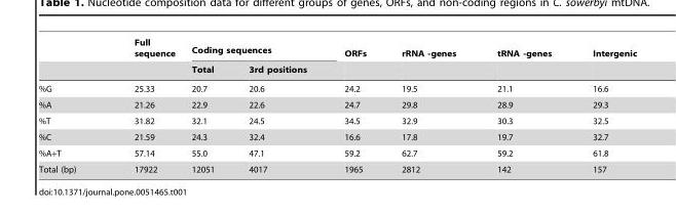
<table><thead><tr><td rowspan="2"></td><td rowspan="2">Full sequence</td><td colspan="2">Coding sequences</td><td rowspan="2">ORFs</td><td rowspan="2">rRNA -genes</td><td rowspan="2">tRNA -genes</td><td rowspan="2">Intergenic</td></tr><tr><td>Total</td><td>3rd positions</td></tr></thead><tbody><tr><td>%G</td><td>25.33</td><td>20.7</td><td>20.6</td><td>24.2</td><td>19.5</td><td>21.1</td><td>16.6</td></tr><tr><td>%A</td><td>21.26</td><td>22.9</td><td>22.6</td><td>24.7</td><td>29.8</td><td>28.9</td><td>29.3</td></tr><tr><td>%T</td><td>31.82</td><td>32.1</td><td>24.5</td><td>34.5</td><td>32.9</td><td>30.3</td><td>32.5</td></tr><tr><td>%C</td><td>21.59</td><td>24.3</td><td>32.4</td><td>16.6</td><td>17.8</td><td>19.7</td><td>32.7</td></tr><tr><td>%A+T</td><td>57.14</td><td>55.0</td><td>47.1</td><td>59.2</td><td>62.7</td><td>59.2</td><td>61.8</td></tr><tr><td>Total (bp)</td><td>17922</td><td>12051</td><td>4017</td><td>1965</td><td>2812</td><td>142</td><td>157</td></tr></tbody></table>